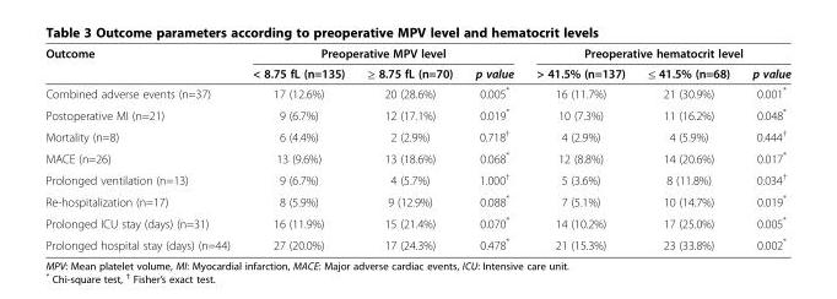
<table><thead><tr><td rowspan="2">Outcome</td><td colspan="3">Preoperative MPV level</td><td colspan="3">Preoperative hematocrit level</td></tr><tr><td>&lt; 8.75 fL (n=135)</td><td>≥ 8.75 fL (n=70)</td><td>p value</td><td>&gt; 41.5% (n=137)</td><td>≤ 41.5% (n=68)</td><td>p value</td></tr></thead><tbody><tr><td>Combined adverse events (n=37)</td><td>17 (12.6%)</td><td>20 (28.6%)</td><td>0.005*</td><td>16 (11.7%)</td><td>21 (30.9%)</td><td>0.001*</td></tr><tr><td>Postoperative MI (n=21)</td><td>9 (6.7%)</td><td>12 (17.1%)</td><td>0.019*</td><td>10 (7.3%)</td><td>11 (16.2%)</td><td>0.048*</td></tr><tr><td>Mortality (n=8)</td><td>6 (4.4%)</td><td>2 (2.9%)</td><td>0.718<sup>†</sup></td><td>4 (2.9%)</td><td>4 (5.9%)</td><td>0.444<sup>†</sup></td></tr><tr><td>MACE (n=26)</td><td>13 (9.6%)</td><td>13 (18.6%)</td><td>0.068*</td><td>12 (8.8%)</td><td>14 (20.6%)</td><td>0.017*</td></tr><tr><td>Prolonged ventilation (n=13)</td><td>9 (6.7%)</td><td>4 (5.7%)</td><td>1.000<sup>†</sup></td><td>5 (3.6%)</td><td>8 (11.8%)</td><td>0.034<sup>†</sup></td></tr><tr><td>Re-hospitalization (n=17)</td><td>8 (5.9%)</td><td>9 (12.9%)</td><td>0.088*</td><td>7 (5.1%)</td><td>10 (14.7%)</td><td>0.019*</td></tr><tr><td>Prolonged ICU stay (days) (n=31)</td><td>16 (11.9%)</td><td>15 (21.4%)</td><td>0.070*</td><td>14 (10.2%)</td><td>17 (25.0%)</td><td>0.005*</td></tr><tr><td>Prolonged hospital stay (days) (n=44)</td><td>27 (20.0%)</td><td>17 (24.3%)</td><td>0.478*</td><td>21 (15.3%)</td><td>23 (33.8%)</td><td>0.002*</td></tr></tbody></table>